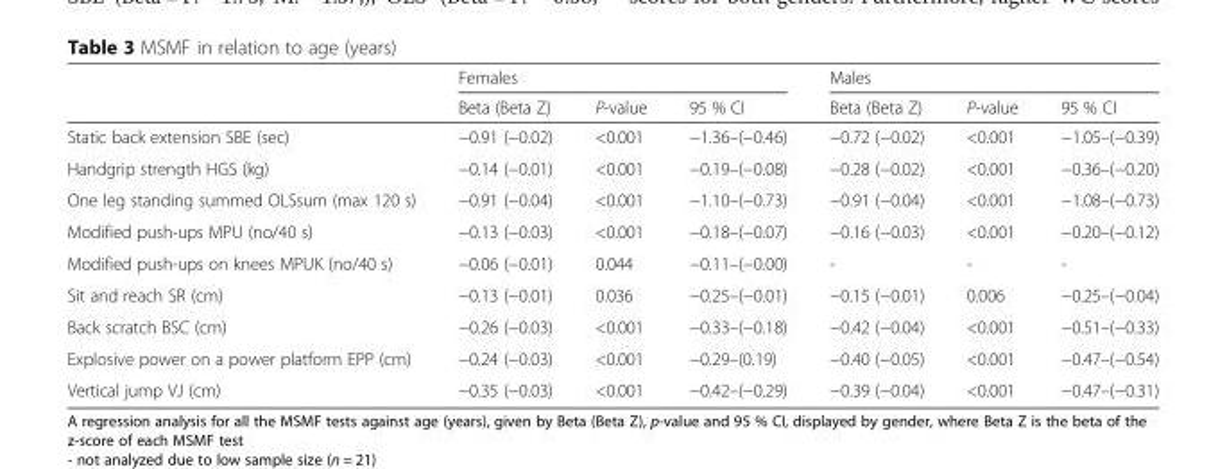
<table><thead><tr><td rowspan="2"></td><td colspan="3">Females</td><td colspan="3">Males</td></tr><tr><td>Beta (Beta Z)</td><td>P-value</td><td>95 % CI</td><td>Beta (Beta Z)</td><td>P-value</td><td>95 % CI</td></tr></thead><tbody><tr><td>Static back extension SBE (sec)</td><td>−0.91 (−0.02)</td><td>&lt;0.001</td><td>−1.36–(−0.46)</td><td>−0.72 (−0.02)</td><td>&lt;0.001</td><td>−1.05–(−0.39)</td></tr><tr><td>Handgrip strength HGS (kg)</td><td>−0.14 (−0.01)</td><td>&lt;0.001</td><td>−0.19–(−0.08)</td><td>−0.28 (−0.02)</td><td>&lt;0.001</td><td>−0.36–(−0.20)</td></tr><tr><td>One leg standing summed OLSsum (max 120 s)</td><td>−0.91 (−0.04)</td><td>&lt;0.001</td><td>−1.10–(−0.73)</td><td>−0.91 (−0.04)</td><td>&lt;0.001</td><td>−1.08–(−0.73)</td></tr><tr><td>Modified push-ups MPU (no/40 s)</td><td>−0.13 (−0.03)</td><td>&lt;0.001</td><td>−0.18–(−0.07)</td><td>−0.16 (−0.03)</td><td>&lt;0.001</td><td>−0.20–(−0.12)</td></tr><tr><td>Modified push-ups on knees MPUK (no/40 s)</td><td>−0.06 (−0.01)</td><td>0.044</td><td>−0.11–(−0.00)</td><td>-</td><td>-</td><td>-</td></tr><tr><td>Sit and reach SR (cm)</td><td>−0.13 (−0.01)</td><td>0.036</td><td>−0.25–(−0.01)</td><td>−0.15 (−0.01)</td><td>0.006</td><td>−0.25–(−0.04)</td></tr><tr><td>Back scratch BSC (cm)</td><td>−0.26 (−0.03)</td><td>&lt;0.001</td><td>−0.33–(−0.18)</td><td>−0.42 (−0.04)</td><td>&lt;0.001</td><td>−0.51–(−0.33)</td></tr><tr><td>Explosive power on a power platform EPP (cm)</td><td>−0.24 (−0.03)</td><td>&lt;0.001</td><td>−0.29–(0.19)</td><td>−0.40 (−0.05)</td><td>&lt;0.001</td><td>−0.47–(−0.54)</td></tr><tr><td>Vertical jump VJ (cm)</td><td>−0.35 (−0.03)</td><td>&lt;0.001</td><td>−0.42–(−0.29)</td><td>−0.39 (−0.04)</td><td>&lt;0.001</td><td>−0.47–(−0.31)</td></tr></tbody></table>